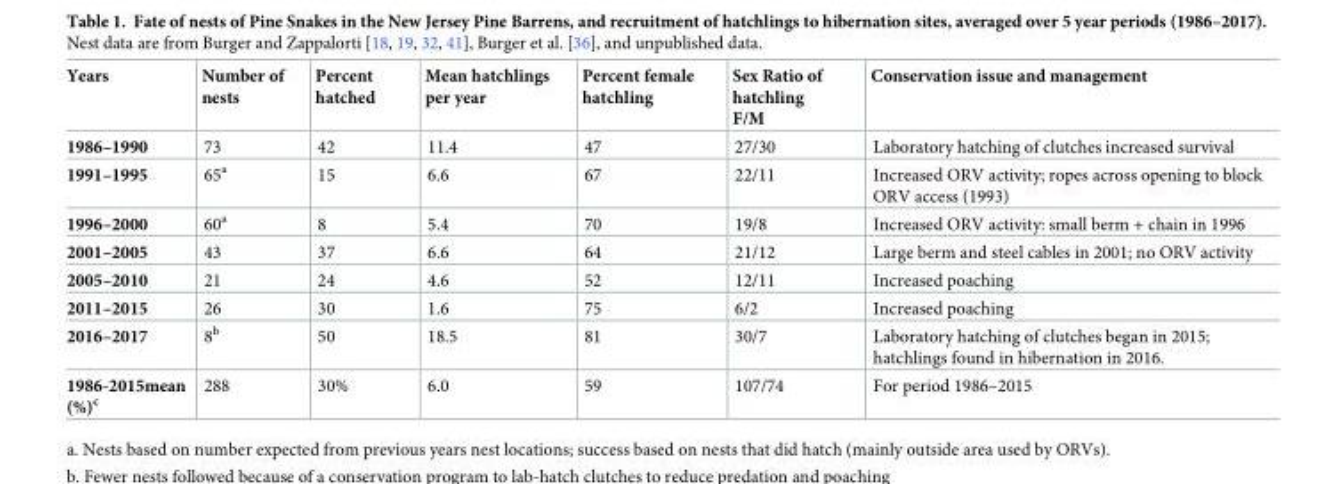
<table><thead><tr><td>Years</td><td>Number of nests</td><td>Percent hatched</td><td>Mean hatchlings per year</td><td>Percent female hatchling</td><td>Sex Ratio of hatchling F/M</td><td>Conservation issue and management</td></tr></thead><tbody><tr><td>1986–1990</td><td>73</td><td>42</td><td>11.4</td><td>47</td><td>27/30</td><td>Laboratory hatching of clutches increased survival</td></tr><tr><td>1991–1995</td><td>65<sup>a</sup></td><td>15</td><td>6.6</td><td>67</td><td>22/11</td><td>Increased ORV activity; ropes across opening to block ORV access (1993)</td></tr><tr><td>1996–2000</td><td>60<sup>a</sup></td><td>8</td><td>5.4</td><td>70</td><td>19/8</td><td>Increased ORV activity: small berm + chain in 1996</td></tr><tr><td>2001–2005</td><td>43</td><td>37</td><td>6.6</td><td>64</td><td>21/12</td><td>Large berm and steel cables in 2001; no ORV activity</td></tr><tr><td>2005–2010</td><td>21</td><td>24</td><td>4.6</td><td>52</td><td>12/11</td><td>Increased poaching</td></tr><tr><td>2011–2015</td><td>26</td><td>30</td><td>1.6</td><td>75</td><td>6/2</td><td>Increased poaching</td></tr><tr><td>2016–2017</td><td>8<sup>b</sup></td><td>50</td><td>18.5</td><td>81</td><td>30/7</td><td>Laboratory hatching of clutches began in 2015; hatchlings found in hibernation in 2016.</td></tr><tr><td>1986-2015mean (%)<sup>c</sup></td><td>288</td><td>30%</td><td>6.0</td><td>59</td><td>107/74</td><td>For period 1986–2015</td></tr></tbody></table>